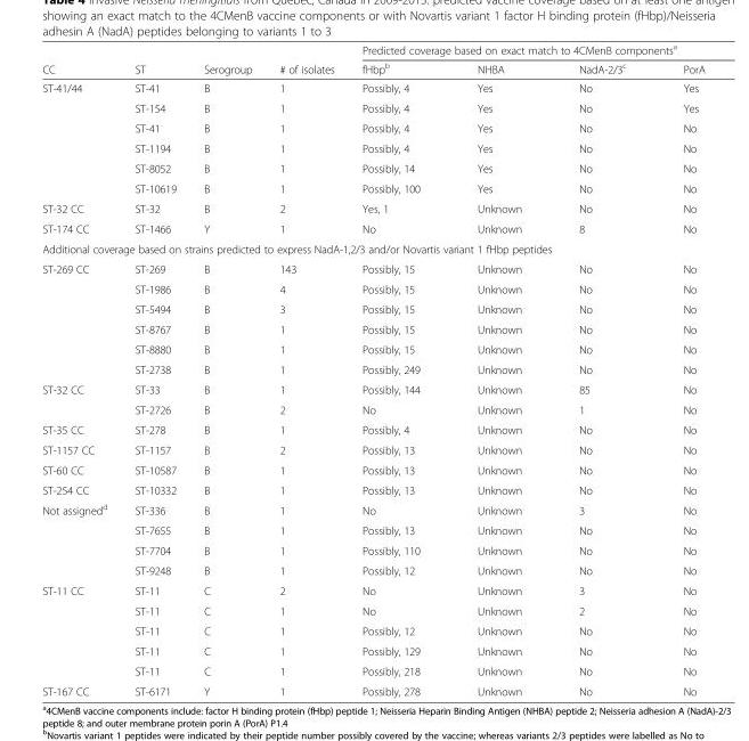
<table><thead><tr><td rowspan="2">CC</td><td rowspan="2">ST</td><td rowspan="2">Serogroup</td><td rowspan="2"># of isolates</td><td colspan="4">Predicted coverage based on exact match to 4CMenB components<sup>a</sup></td></tr><tr><td>fHbp<sup>b</sup></td><td>NHBA</td><td>NadA-2/3<sup>c</sup></td><td>PorA</td></tr></thead><tbody><tr><td rowspan="6">ST-41/44</td><td>ST-41</td><td>B</td><td>1</td><td>Possibly, 4</td><td>Yes</td><td>No</td><td>Yes</td></tr><tr><td>ST-154</td><td>B</td><td>1</td><td>Possibly, 4</td><td>Yes</td><td>No</td><td>Yes</td></tr><tr><td>ST-41</td><td>B</td><td>1</td><td>Possibly, 4</td><td>Yes</td><td>No</td><td>No</td></tr><tr><td>ST-1194</td><td>B</td><td>1</td><td>Possibly, 4</td><td>Yes</td><td>No</td><td>No</td></tr><tr><td>ST-8052</td><td>B</td><td>1</td><td>Possibly, 14</td><td>Yes</td><td>No</td><td>No</td></tr><tr><td>ST-10619</td><td>B</td><td>1</td><td>Possibly, 100</td><td>Yes</td><td>No</td><td>No</td></tr><tr><td>ST-32 CC</td><td>ST-32</td><td>B</td><td>2</td><td>Yes, 1</td><td>Unknown</td><td>No</td><td>No</td></tr><tr><td>ST-174 CC</td><td>ST-1466</td><td>Y</td><td>1</td><td>No</td><td>Unknown</td><td>8</td><td>No</td></tr><tr><td colspan="8">Additional coverage based on strains predicted to express NadA-1,2/3 and/or Novartis variant 1 fHbp peptides</td></tr><tr><td rowspan="6">ST-269 CC</td><td>ST-269</td><td>B</td><td>143</td><td>Possibly, 15</td><td>Unknown</td><td>No</td><td>No</td></tr><tr><td>ST-1986</td><td>B</td><td>4</td><td>Possibly, 15</td><td>Unknown</td><td>No</td><td>No</td></tr><tr><td>ST-5494</td><td>B</td><td>3</td><td>Possibly, 15</td><td>Unknown</td><td>No</td><td>No</td></tr><tr><td>ST-8767</td><td>B</td><td>1</td><td>Possibly, 15</td><td>Unknown</td><td>No</td><td>No</td></tr><tr><td>ST-8880</td><td>B</td><td>1</td><td>Possibly, 15</td><td>Unknown</td><td>No</td><td>No</td></tr><tr><td>ST-2738</td><td>B</td><td>1</td><td>Possibly, 249</td><td>Unknown</td><td>No</td><td>No</td></tr><tr><td rowspan="2">ST-32 CC</td><td>ST-33</td><td>B</td><td>1</td><td>Possibly, 144</td><td>Unknown</td><td>85</td><td>No</td></tr><tr><td>ST-2726</td><td>B</td><td>2</td><td>No</td><td>Unknown</td><td>1</td><td>No</td></tr><tr><td>ST-35 CC</td><td>ST-278</td><td>B</td><td>1</td><td>Possibly, 4</td><td>Unknown</td><td>No</td><td>No</td></tr><tr><td>ST-1157 CC</td><td>ST-1157</td><td>B</td><td>2</td><td>Possibly, 13</td><td>Unknown</td><td>No</td><td>No</td></tr><tr><td>ST-60 CC</td><td>ST-10587</td><td>B</td><td>1</td><td>Possibly, 13</td><td>Unknown</td><td>No</td><td>No</td></tr><tr><td>ST-254 CC</td><td>ST-10332</td><td>B</td><td>1</td><td>Possibly, 13</td><td>Unknown</td><td>No</td><td>No</td></tr><tr><td rowspan="4">Not assigned<sup>d</sup></td><td>ST-336</td><td>B</td><td>1</td><td>No</td><td>Unknown</td><td>3</td><td>No</td></tr><tr><td>ST-7655</td><td>B</td><td>1</td><td>Possibly, 13</td><td>Unknown</td><td>No</td><td>No</td></tr><tr><td>ST-7704</td><td>B</td><td>1</td><td>Possibly, 110</td><td>Unknown</td><td>No</td><td>No</td></tr><tr><td>ST-9248</td><td>B</td><td>1</td><td>Possibly, 12</td><td>Unknown</td><td>No</td><td>No</td></tr><tr><td rowspan="5">ST-11 CC</td><td>ST-11</td><td>C</td><td>2</td><td>No</td><td>Unknown</td><td>3</td><td>No</td></tr><tr><td>ST-11</td><td>C</td><td>1</td><td>No</td><td>Unknown</td><td>2</td><td>No</td></tr><tr><td>ST-11</td><td>C</td><td>1</td><td>Possibly, 12</td><td>Unknown</td><td>No</td><td>No</td></tr><tr><td>ST-11</td><td>C</td><td>1</td><td>Possibly, 129</td><td>Unknown</td><td>No</td><td>No</td></tr><tr><td>ST-11</td><td>C</td><td>1</td><td>Possibly, 218</td><td>Unknown</td><td>No</td><td>No</td></tr><tr><td>ST-167 CC</td><td>ST-6171</td><td>Y</td><td>1</td><td>Possibly, 278</td><td>Unknown</td><td>No</td><td>No</td></tr></tbody></table>